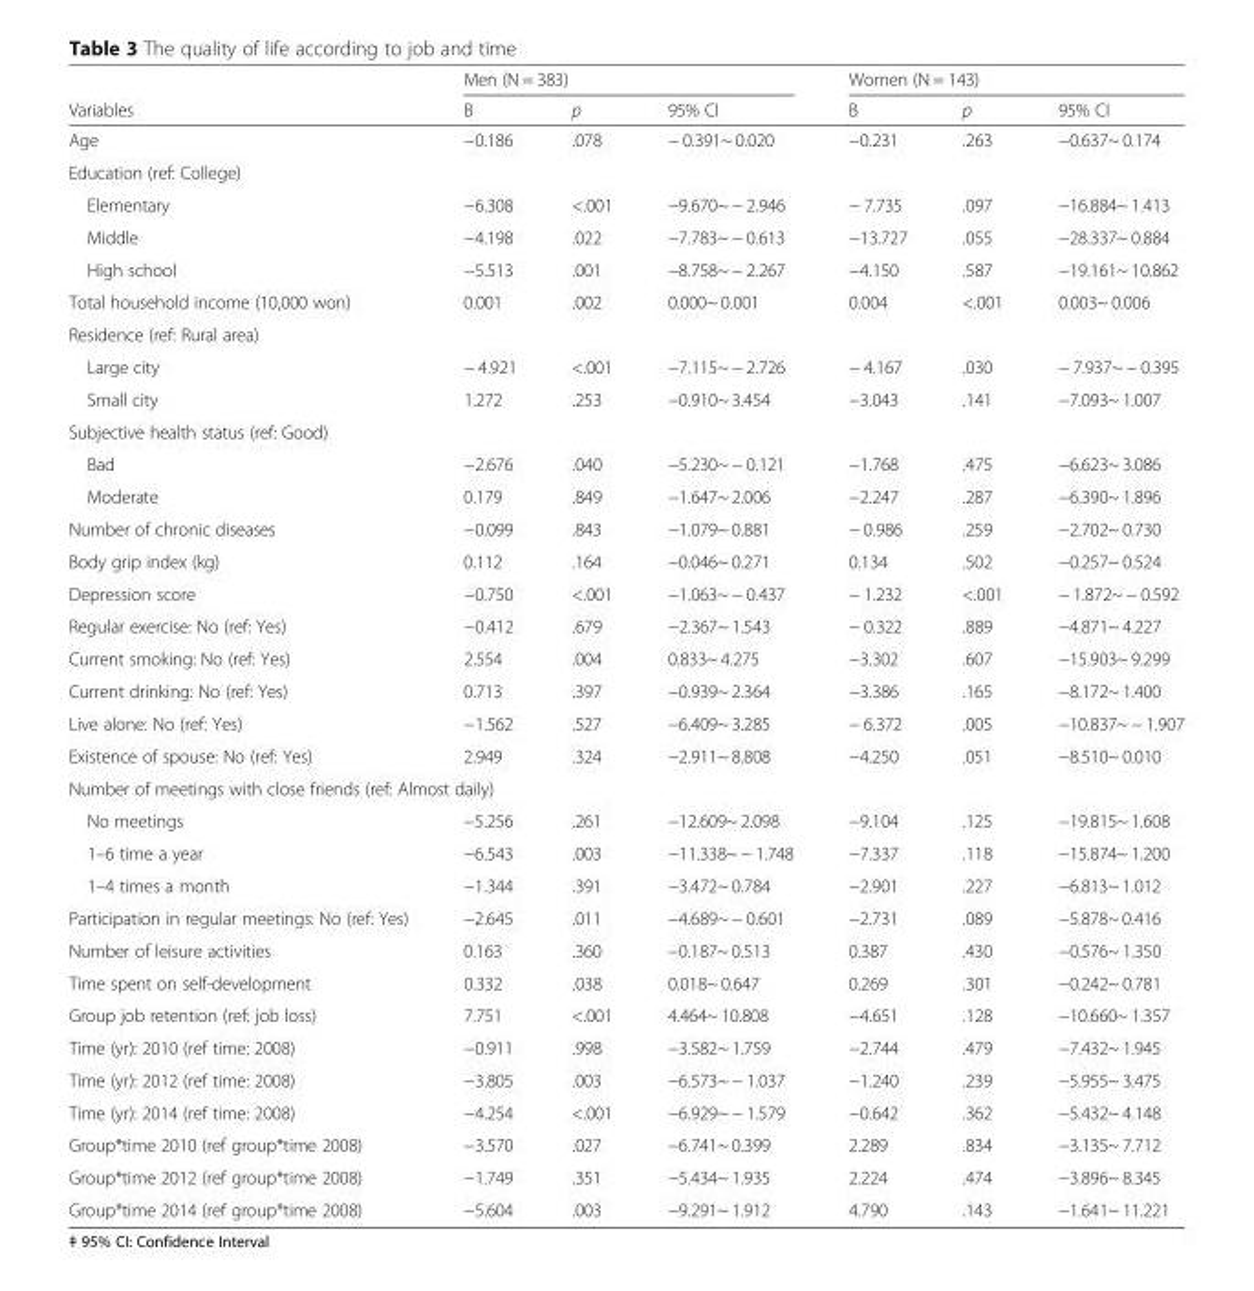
<table><thead><tr><td rowspan="2">Variables</td><td colspan="3">Men (N = 383)</td><td colspan="3">Women (N = 143)</td></tr><tr><td>B</td><td>p</td><td>95% CI</td><td>B</td><td>p</td><td>95% CI</td></tr></thead><tbody><tr><td>Age</td><td>−0.186</td><td>.078</td><td>− 0.391~ 0.020</td><td>−0.231</td><td>.263</td><td>−0.637~ 0.174</td></tr><tr><td colspan="7">Education (ref: College)</td></tr><tr><td>Elementary</td><td>−6.308</td><td>&lt;.001</td><td>−9.670~ − 2.946</td><td>− 7.735</td><td>.097</td><td>−16.884~ 1.413</td></tr><tr><td>Middle</td><td>−4.198</td><td>.022</td><td>−7.783~ − 0.613</td><td>−13.727</td><td>.055</td><td>−28.337~ 0.884</td></tr><tr><td>High school</td><td>−5.513</td><td>.001</td><td>−8.758~ − 2.267</td><td>−4.150</td><td>.587</td><td>−19.161~ 10.862</td></tr><tr><td>Total household income (10,000 won)</td><td>0.001</td><td>.002</td><td>0.000~ 0.001</td><td>0.004</td><td>&lt;.001</td><td>0.003~ 0.006</td></tr><tr><td colspan="7">Residence (ref: Rural area)</td></tr><tr><td>Large city</td><td>− 4.921</td><td>&lt;.001</td><td>−7.115~ − 2.726</td><td>− 4.167</td><td>.030</td><td>− 7.937~ − 0.395</td></tr><tr><td>Small city</td><td>1.272</td><td>.253</td><td>−0.910~ 3.454</td><td>−3.043</td><td>.141</td><td>−7.093~ 1.007</td></tr><tr><td colspan="7">Subjective health status (ref: Good)</td></tr><tr><td>Bad</td><td>−2.676</td><td>.040</td><td>−5.230~ − 0.121</td><td>−1.768</td><td>.475</td><td>−6.623~ 3.086</td></tr><tr><td>Moderate</td><td>0.179</td><td>.849</td><td>−1.647~ 2.006</td><td>−2.247</td><td>.287</td><td>−6.390~ 1.896</td></tr><tr><td>Number of chronic diseases</td><td>−0.099</td><td>.843</td><td>−1.079~ 0.881</td><td>− 0.986</td><td>.259</td><td>−2.702~ 0.730</td></tr><tr><td>Body grip index (kg)</td><td>0.112</td><td>.164</td><td>−0.046~ 0.271</td><td>0.134</td><td>.502</td><td>−0.257~ 0.524</td></tr><tr><td>Depression score</td><td>−0.750</td><td>&lt;.001</td><td>−1.063~ − 0.437</td><td>− 1.232</td><td>&lt;.001</td><td>− 1.872~ − 0.592</td></tr><tr><td>Regular exercise: No (ref: Yes)</td><td>−0.412</td><td>.679</td><td>−2.367~ 1.543</td><td>− 0.322</td><td>.889</td><td>−4.871~ 4.227</td></tr><tr><td>Current smoking: No (ref: Yes)</td><td>2.554</td><td>.004</td><td>0.833~ 4.275</td><td>−3.302</td><td>.607</td><td>−15.903~ 9.299</td></tr><tr><td>Current drinking: No (ref: Yes)</td><td>0.713</td><td>.397</td><td>−0.939~ 2.364</td><td>−3.386</td><td>.165</td><td>−8.172~ 1.400</td></tr><tr><td>Live alone: No (ref: Yes)</td><td>−1.562</td><td>.527</td><td>−6.409~ 3.285</td><td>− 6.372</td><td>.005</td><td>−10.837~ − 1.907</td></tr><tr><td>Existence of spouse: No (ref: Yes)</td><td>2.949</td><td>.324</td><td>−2.911~ 8.808</td><td>−4.250</td><td>.051</td><td>−8.510~ 0.010</td></tr><tr><td colspan="7">Number of meetings with close friends (ref: Almost daily)</td></tr><tr><td>No meetings</td><td>−5.256</td><td>.261</td><td>−12.609~ 2.098</td><td>−9.104</td><td>.125</td><td>−19.815~ 1.608</td></tr><tr><td>1–6 time a year</td><td>−6.543</td><td>.003</td><td>−11.338~ − 1.748</td><td>−7.337</td><td>.118</td><td>−15.874~ 1.200</td></tr><tr><td>1–4 times a month</td><td>−1.344</td><td>.391</td><td>−3.472~ 0.784</td><td>−2.901</td><td>.227</td><td>−6.813~ 1.012</td></tr><tr><td>Participation in regular meetings: No (ref: Yes)</td><td>−2.645</td><td>.011</td><td>−4.689~ − 0.601</td><td>−2.731</td><td>.089</td><td>−5.878~ 0.416</td></tr><tr><td>Number of leisure activities</td><td>0.163</td><td>.360</td><td>−0.187~ 0.513</td><td>0.387</td><td>.430</td><td>−0.576~ 1.350</td></tr><tr><td>Time spent on self-development</td><td>0.332</td><td>.038</td><td>0.018~ 0.647</td><td>0.269</td><td>.301</td><td>−0.242~ 0.781</td></tr><tr><td>Group job retention (ref: job loss)</td><td>7.751</td><td>&lt;.001</td><td>4.464~ 10.808</td><td>−4.651</td><td>.128</td><td>−10.660~ 1.357</td></tr><tr><td>Time (yr): 2010 (ref time: 2008)</td><td>−0.911</td><td>.998</td><td>−3.582~ 1.759</td><td>−2.744</td><td>.479</td><td>−7.432~ 1.945</td></tr><tr><td>Time (yr): 2012 (ref time: 2008)</td><td>−3.805</td><td>.003</td><td>−6.573~ − 1.037</td><td>−1.240</td><td>.239</td><td>−5.955~ 3.475</td></tr><tr><td>Time (yr): 2014 (ref time: 2008)</td><td>−4.254</td><td>&lt;.001</td><td>−6.929~ − 1.579</td><td>−0.642</td><td>.362</td><td>−5.432~ 4.148</td></tr><tr><td>Group*time 2010 (ref group*time 2008)</td><td>−3.570</td><td>.027</td><td>−6.741~ 0.399</td><td>2.289</td><td>.834</td><td>−3.135~ 7.712</td></tr><tr><td>Group*time 2012 (ref group*time 2008)</td><td>−1.749</td><td>.351</td><td>−5.434~ 1.935</td><td>2.224</td><td>.474</td><td>−3.896~ 8.345</td></tr><tr><td>Group*time 2014 (ref group*time 2008)</td><td>−5.604</td><td>.003</td><td>−9.291~ 1.912</td><td>4.790</td><td>.143</td><td>−1.641~ 11.221</td></tr></tbody></table>